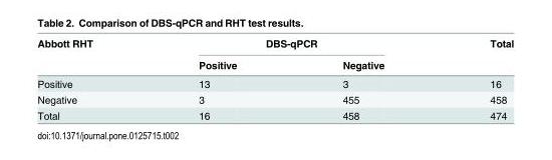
<table><thead><tr><td rowspan="2">Abbott RHT</td><td colspan="2">DBS-qPCR</td><td rowspan="2">Total</td></tr><tr><td>Positive</td><td>Negative</td></tr></thead><tbody><tr><td>Positive</td><td>13</td><td>3</td><td>16</td></tr><tr><td>Negative</td><td>3</td><td>455</td><td>458</td></tr><tr><td>Total</td><td>16</td><td>458</td><td>474</td></tr></tbody></table>